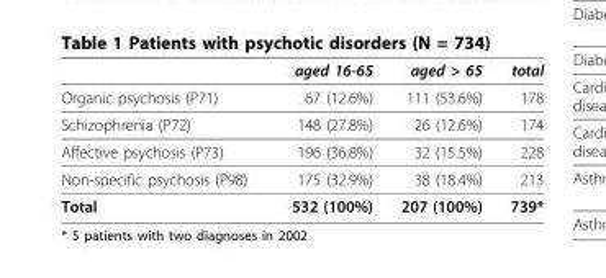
<table><thead><tr><td></td><td>aged 16-65</td><td>aged &gt; 65</td><td>total</td></tr></thead><tbody><tr><td>Organic psychosis (P71)</td><td>67 (12.6%)</td><td>111 (53.6%)</td><td>178</td></tr><tr><td>Schizophrenia (P72)</td><td>148 (27.8%)</td><td>26 (12.6%)</td><td>174</td></tr><tr><td>Affective psychosis (P73)</td><td>196 (36.8%)</td><td>32 (15.5%)</td><td>228</td></tr><tr><td>Non-specific psychosis (P98)</td><td>175 (32.9%)</td><td>38 (18.4%)</td><td>213</td></tr><tr><td>Total</td><td>532 (100%)</td><td>207 (100%)</td><td>739*</td></tr></tbody></table>